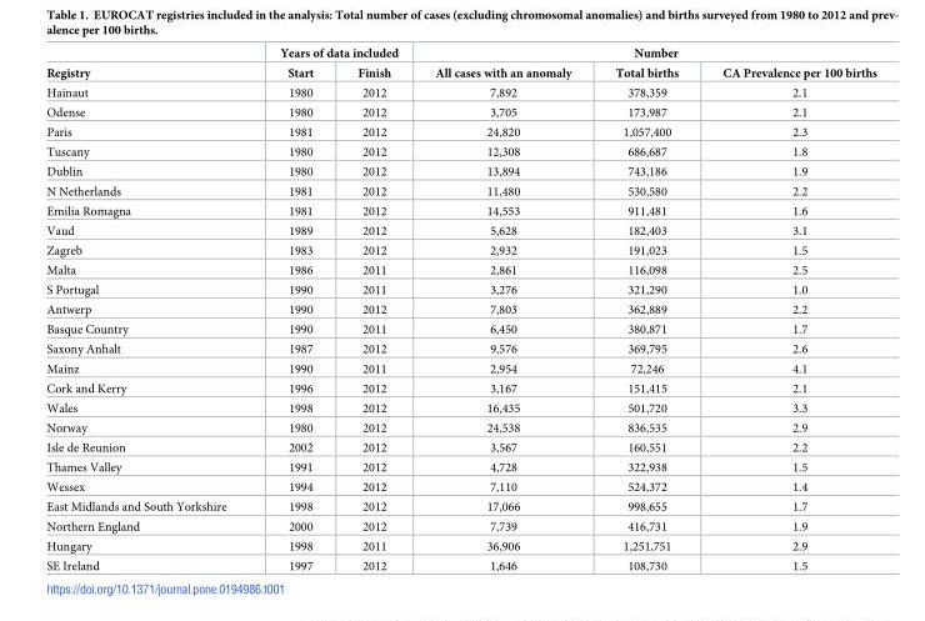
<table><thead><tr><td rowspan="2">Registry</td><td colspan="2">Years of data included</td><td colspan="3">Number</td></tr><tr><td>Start</td><td>Finish</td><td>All cases with an anomaly</td><td>Total births</td><td>CA Prevalence per 100 births</td></tr></thead><tbody><tr><td>Hainaut</td><td>1980</td><td>2012</td><td>7,892</td><td>378,359</td><td>2.1</td></tr><tr><td>Odense</td><td>1980</td><td>2012</td><td>3,705</td><td>173,987</td><td>2.1</td></tr><tr><td>Paris</td><td>1981</td><td>2012</td><td>24,820</td><td>1,057,400</td><td>2.3</td></tr><tr><td>Tuscany</td><td>1980</td><td>2012</td><td>12,308</td><td>686,687</td><td>1.8</td></tr><tr><td>Dublin</td><td>1980</td><td>2012</td><td>13,894</td><td>743,186</td><td>1.9</td></tr><tr><td>N Netherlands</td><td>1981</td><td>2012</td><td>11,480</td><td>530,580</td><td>2.2</td></tr><tr><td>Emilia Romagna</td><td>1981</td><td>2012</td><td>14,553</td><td>911,481</td><td>1.6</td></tr><tr><td>Vaud</td><td>1989</td><td>2012</td><td>5,628</td><td>182,403</td><td>3.1</td></tr><tr><td>Zagreb</td><td>1983</td><td>2012</td><td>2,932</td><td>191,023</td><td>1.5</td></tr><tr><td>Malta</td><td>1986</td><td>2011</td><td>2,861</td><td>116,098</td><td>2.5</td></tr><tr><td>S Portugal</td><td>1990</td><td>2011</td><td>3,276</td><td>321,290</td><td>1.0</td></tr><tr><td>Antwerp</td><td>1990</td><td>2012</td><td>7,803</td><td>362,889</td><td>2.2</td></tr><tr><td>Basque Country</td><td>1990</td><td>2011</td><td>6,450</td><td>380,871</td><td>1.7</td></tr><tr><td>Saxony Anhalt</td><td>1987</td><td>2012</td><td>9,576</td><td>369,795</td><td>2.6</td></tr><tr><td>Mainz</td><td>1990</td><td>2011</td><td>2,954</td><td>72,246</td><td>4.1</td></tr><tr><td>Cork and Kerry</td><td>1996</td><td>2012</td><td>3,167</td><td>151,415</td><td>2.1</td></tr><tr><td>Wales</td><td>1998</td><td>2012</td><td>16,435</td><td>501,720</td><td>3.3</td></tr><tr><td>Norway</td><td>1980</td><td>2012</td><td>24,538</td><td>836,535</td><td>2.9</td></tr><tr><td>Isle de Reunion</td><td>2002</td><td>2012</td><td>3,567</td><td>160,551</td><td>2.2</td></tr><tr><td>Thames Valley</td><td>1991</td><td>2012</td><td>4,728</td><td>322,938</td><td>1.5</td></tr><tr><td>Wessex</td><td>1994</td><td>2012</td><td>7,110</td><td>524,372</td><td>1.4</td></tr><tr><td>East Midlands and South Yorkshire</td><td>1998</td><td>2012</td><td>17,066</td><td>998,655</td><td>1.7</td></tr><tr><td>Northern England</td><td>2000</td><td>2012</td><td>7,739</td><td>416,731</td><td>1.9</td></tr><tr><td>Hungary</td><td>1998</td><td>2011</td><td>36,906</td><td>1,251,751</td><td>2.9</td></tr><tr><td>SE Ireland</td><td>1997</td><td>2012</td><td>1,646</td><td>108,730</td><td>1.5</td></tr></tbody></table>